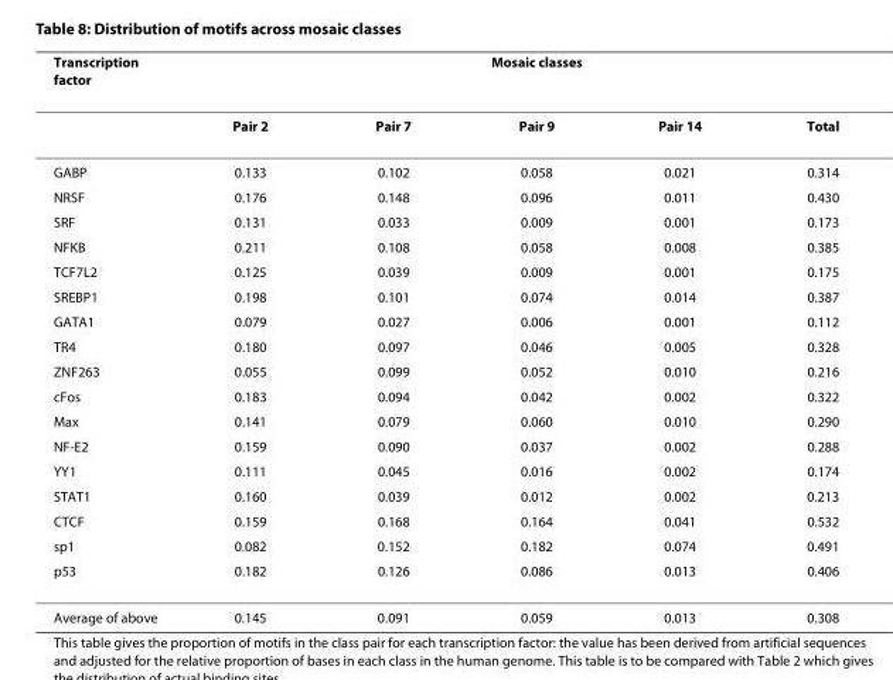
<table><thead><tr><td rowspan="2">Transcription factor</td><td colspan="5">Mosaic classes</td></tr><tr><td>Pair 2</td><td>Pair 7</td><td>Pair 9</td><td>Pair 14</td><td>Total</td></tr></thead><tbody><tr><td>GABP</td><td>0.133</td><td>0.102</td><td>0.058</td><td>0.021</td><td>0.314</td></tr><tr><td>NRSF</td><td>0.176</td><td>0.148</td><td>0.096</td><td>0.011</td><td>0.430</td></tr><tr><td>SRF</td><td>0.131</td><td>0.033</td><td>0.009</td><td>0.001</td><td>0.173</td></tr><tr><td>NFKB</td><td>0.211</td><td>0.108</td><td>0.058</td><td>0.008</td><td>0.385</td></tr><tr><td>TCF7L2</td><td>0.125</td><td>0.039</td><td>0.009</td><td>0.001</td><td>0.175</td></tr><tr><td>SREBP1</td><td>0.198</td><td>0.101</td><td>0.074</td><td>0.014</td><td>0.387</td></tr><tr><td>GATA1</td><td>0.079</td><td>0.027</td><td>0.006</td><td>0.001</td><td>0.112</td></tr><tr><td>TR4</td><td>0.180</td><td>0.097</td><td>0.046</td><td>0.005</td><td>0.328</td></tr><tr><td>ZNF263</td><td>0.055</td><td>0.099</td><td>0.052</td><td>0.010</td><td>0.216</td></tr><tr><td>cFos</td><td>0.183</td><td>0.094</td><td>0.042</td><td>0.002</td><td>0.322</td></tr><tr><td>Max</td><td>0.141</td><td>0.079</td><td>0.060</td><td>0.010</td><td>0.290</td></tr><tr><td>NF-E2</td><td>0.159</td><td>0.090</td><td>0.037</td><td>0.002</td><td>0.288</td></tr><tr><td>YY1</td><td>0.111</td><td>0.045</td><td>0.016</td><td>0.002</td><td>0.174</td></tr><tr><td>STAT1</td><td>0.160</td><td>0.039</td><td>0.012</td><td>0.002</td><td>0.213</td></tr><tr><td>CTCF</td><td>0.159</td><td>0.168</td><td>0.164</td><td>0.041</td><td>0.532</td></tr><tr><td>sp1</td><td>0.082</td><td>0.152</td><td>0.182</td><td>0.074</td><td>0.491</td></tr><tr><td>p53</td><td>0.182</td><td>0.126</td><td>0.086</td><td>0.013</td><td>0.406</td></tr><tr><td>Average of above</td><td>0.145</td><td>0.091</td><td>0.059</td><td>0.013</td><td>0.308</td></tr></tbody></table>